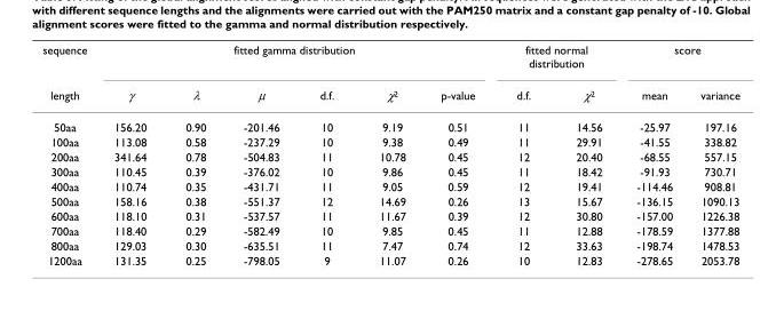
<table><thead><tr><td rowspan="2">sequence length</td><td colspan="6">fitted gamma distribution</td><td colspan="2">fitted normal distribution</td><td colspan="2">score</td></tr><tr><td>γ</td><td>λ</td><td>µ</td><td>d.f.</td><td>χ<sup>2</sup></td><td>p-value</td><td>d.f.</td><td>χ<sup>2</sup></td><td>mean</td><td>variance</td></tr></thead><tbody><tr><td>50aa</td><td>156.20</td><td>0.90</td><td>-201.46</td><td>10</td><td>9.19</td><td>0.51</td><td>11</td><td>14.56</td><td>-25.97</td><td>197.16</td></tr><tr><td>100aa</td><td>113.08</td><td>0.58</td><td>-237.29</td><td>10</td><td>9.38</td><td>0.49</td><td>11</td><td>29.91</td><td>-41.55</td><td>338.82</td></tr><tr><td>200aa</td><td>341.64</td><td>0.78</td><td>-504.83</td><td>11</td><td>10.78</td><td>0.45</td><td>12</td><td>20.40</td><td>-68.55</td><td>557.15</td></tr><tr><td>300aa</td><td>110.45</td><td>0.39</td><td>-376.02</td><td>10</td><td>9.86</td><td>0.45</td><td>11</td><td>18.42</td><td>-91.93</td><td>730.71</td></tr><tr><td>400aa</td><td>110.74</td><td>0.35</td><td>-431.71</td><td>11</td><td>9.05</td><td>0.59</td><td>12</td><td>19.41</td><td>-114.46</td><td>908.81</td></tr><tr><td>500aa</td><td>158.16</td><td>0.38</td><td>-551.37</td><td>12</td><td>14.69</td><td>0.26</td><td>13</td><td>15.67</td><td>-136.15</td><td>1090.13</td></tr><tr><td>600aa</td><td>118.10</td><td>0.31</td><td>-537.57</td><td>11</td><td>11.67</td><td>0.39</td><td>12</td><td>30.80</td><td>-157.00</td><td>1226.38</td></tr><tr><td>700aa</td><td>118.40</td><td>0.29</td><td>-582.49</td><td>10</td><td>9.85</td><td>0.45</td><td>11</td><td>12.88</td><td>-178.59</td><td>1377.88</td></tr><tr><td>800aa</td><td>129.03</td><td>0.30</td><td>-635.51</td><td>11</td><td>7.47</td><td>0.74</td><td>12</td><td>33.63</td><td>-198.74</td><td>1478.53</td></tr><tr><td>1200aa</td><td>131.35</td><td>0.25</td><td>-798.05</td><td>9</td><td>11.07</td><td>0.26</td><td>10</td><td>12.83</td><td>-278.65</td><td>2053.78</td></tr></tbody></table>